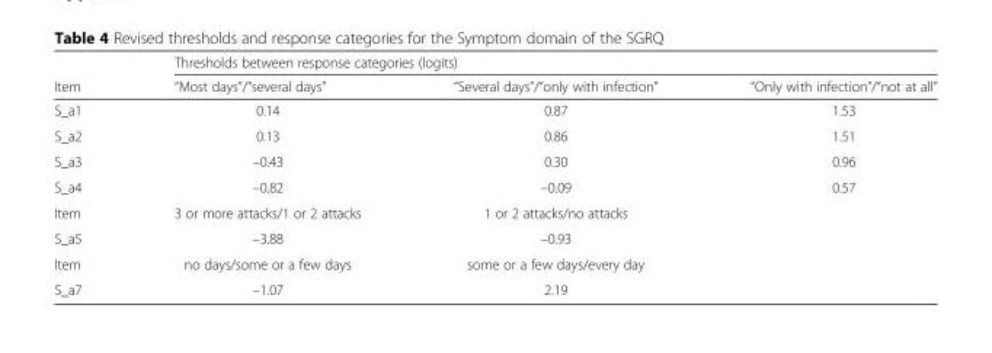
<table><thead><tr><td rowspan="2">Item</td><td colspan="3">Thresholds between response categories (logits)</td></tr><tr><td>“Most days”/“several days”</td><td>“Several days”/“only with infection”</td><td>“Only with infection”/“not at all”</td></tr></thead><tbody><tr><td>S_a1</td><td>0.14</td><td>0.87</td><td>1.53</td></tr><tr><td>S_a2</td><td>0.13</td><td>0.86</td><td>1.51</td></tr><tr><td>S_a3</td><td>–0.43</td><td>0.30</td><td>0.96</td></tr><tr><td>S_a4</td><td>–0.82</td><td>–0.09</td><td>0.57</td></tr><tr><td>Item</td><td>3 or more attacks/1 or 2 attacks</td><td>1 or 2 attacks/no attacks</td><td></td></tr><tr><td>S_a5</td><td>–3.88</td><td>–0.93</td><td></td></tr><tr><td>Item</td><td>no days/some or a few days</td><td>some or a few days/every day</td><td></td></tr><tr><td>S_a7</td><td>–1.07</td><td>2.19</td><td></td></tr></tbody></table>